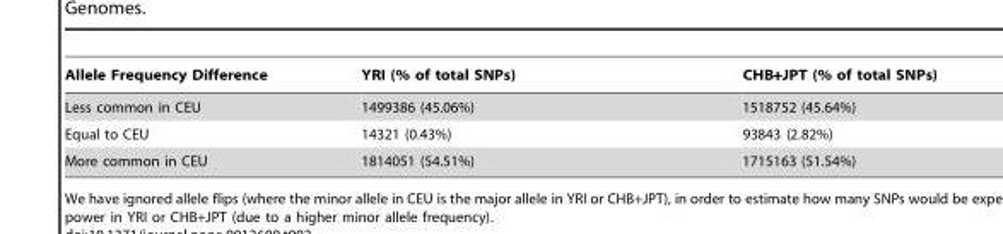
<table><thead><tr><td>Allele Frequency Difference</td><td>YRI (% of total SNPs)</td><td>CHB+JPT (% of total SNPs)</td></tr></thead><tbody><tr><td>Less common in CEU</td><td>1499386 (45.06%)</td><td>1518752 (45.64%)</td></tr><tr><td>Equal to CEU</td><td>14321 (0.43%)</td><td>93843 (2.82%)</td></tr><tr><td>More common in CEU</td><td>1814051 (54.51%)</td><td>1715163 (51.54%)</td></tr></tbody></table>